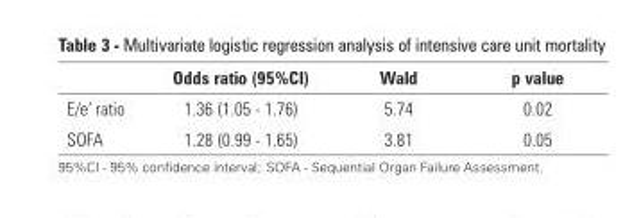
<table><thead><tr><td></td><td>Odds ratio (95%CI)</td><td>Wald</td><td>p value</td></tr></thead><tbody><tr><td>E/e’ ratio</td><td>1.36 (1.05 - 1.76)</td><td>5.74</td><td>0.02</td></tr><tr><td>SOFA</td><td>1.28 (0.99 - 1.65)</td><td>3.81</td><td>0.05</td></tr></tbody></table>